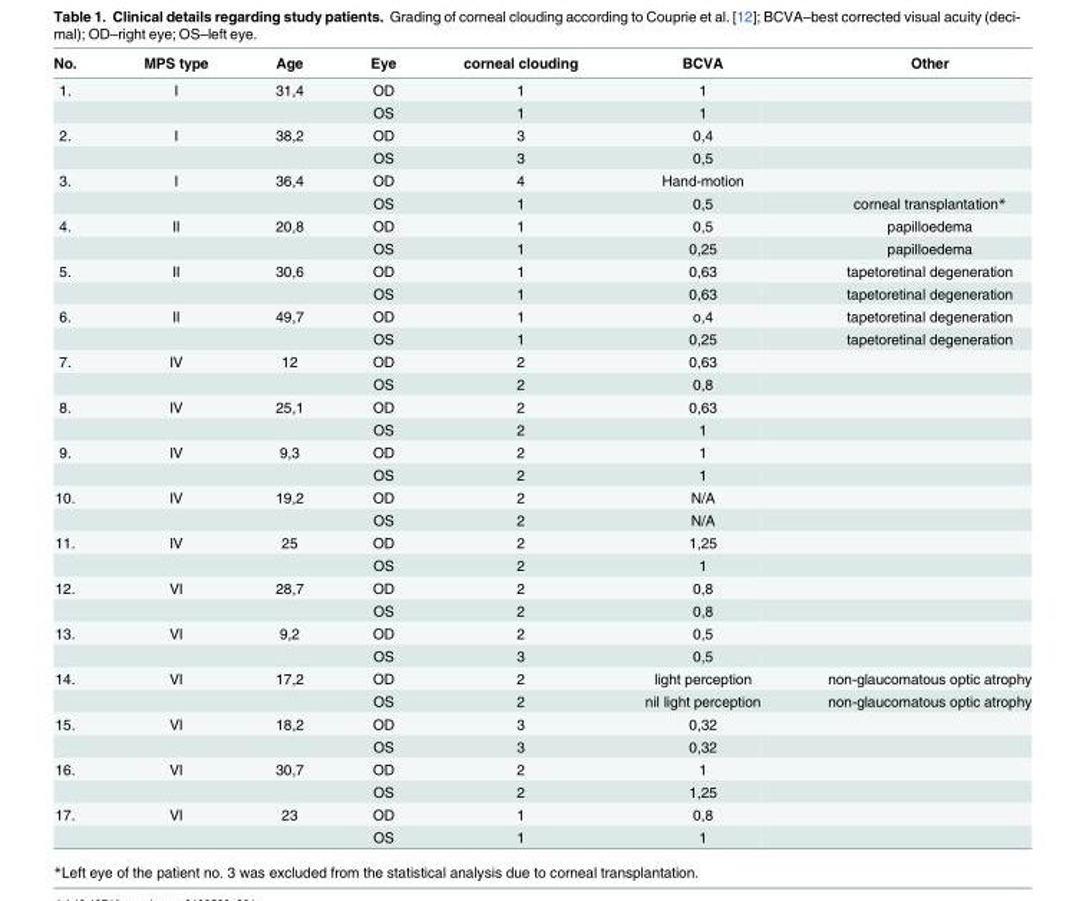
<table><thead><tr><td>No.</td><td>MPS type</td><td>Age</td><td>Eye</td><td>corneal clouding</td><td>BCVA</td><td>Other</td></tr></thead><tbody><tr><td rowspan="2">1.</td><td>I</td><td>31,4</td><td>OD</td><td>1</td><td>1</td><td></td></tr><tr><td></td><td></td><td>OS</td><td>1</td><td>1</td><td></td></tr><tr><td rowspan="2">2.</td><td>I</td><td>38,2</td><td>OD</td><td>3</td><td>0,4</td><td></td></tr><tr><td></td><td></td><td>OS</td><td>3</td><td>0,5</td><td></td></tr><tr><td rowspan="2">3.</td><td>I</td><td>36,4</td><td>OD</td><td>4</td><td>Hand-motion</td><td></td></tr><tr><td></td><td></td><td>OS</td><td>1</td><td>0,5</td><td>corneal transplantation*</td></tr><tr><td rowspan="2">4.</td><td>II</td><td>20,8</td><td>OD</td><td>1</td><td>0,5</td><td>papilloedema</td></tr><tr><td></td><td></td><td>OS</td><td>1</td><td>0,25</td><td>papilloedema</td></tr><tr><td rowspan="2">5.</td><td>II</td><td>30,6</td><td>OD</td><td>1</td><td>0,63</td><td>tapetoretinal degeneration</td></tr><tr><td></td><td></td><td>OS</td><td>1</td><td>0,63</td><td>tapetoretinal degeneration</td></tr><tr><td rowspan="2">6.</td><td>II</td><td>49,7</td><td>OD</td><td>1</td><td>o,4</td><td>tapetoretinal degeneration</td></tr><tr><td></td><td></td><td>OS</td><td>1</td><td>0,25</td><td>tapetoretinal degeneration</td></tr><tr><td rowspan="2">7.</td><td>IV</td><td>12</td><td>OD</td><td>2</td><td>0,63</td><td></td></tr><tr><td></td><td></td><td>OS</td><td>2</td><td>0,8</td><td></td></tr><tr><td rowspan="2">8.</td><td>IV</td><td>25,1</td><td>OD</td><td>2</td><td>0,63</td><td></td></tr><tr><td></td><td></td><td>OS</td><td>2</td><td>1</td><td></td></tr><tr><td rowspan="2">9.</td><td>IV</td><td>9,3</td><td>OD</td><td>2</td><td>1</td><td></td></tr><tr><td></td><td></td><td>OS</td><td>2</td><td>1</td><td></td></tr><tr><td rowspan="2">10.</td><td>IV</td><td>19,2</td><td>OD</td><td>2</td><td>N/A</td><td></td></tr><tr><td></td><td></td><td>OS</td><td>2</td><td>N/A</td><td></td></tr><tr><td rowspan="2">11.</td><td>IV</td><td>25</td><td>OD</td><td>2</td><td>1,25</td><td></td></tr><tr><td></td><td></td><td>OS</td><td>2</td><td>1</td><td></td></tr><tr><td rowspan="2">12.</td><td>VI</td><td>28,7</td><td>OD</td><td>2</td><td>0,8</td><td></td></tr><tr><td></td><td></td><td>OS</td><td>2</td><td>0,8</td><td></td></tr><tr><td rowspan="2">13.</td><td>VI</td><td>9,2</td><td>OD</td><td>2</td><td>0,5</td><td></td></tr><tr><td></td><td></td><td>OS</td><td>3</td><td>0,5</td><td></td></tr><tr><td rowspan="2">14.</td><td>VI</td><td>17,2</td><td>OD</td><td>2</td><td>light perception</td><td>non-glaucomatous optic atrophy</td></tr><tr><td></td><td></td><td>OS</td><td>2</td><td>nil light perception</td><td>non-glaucomatous optic atrophy</td></tr><tr><td rowspan="2">15.</td><td>VI</td><td>18,2</td><td>OD</td><td>3</td><td>0,32</td><td></td></tr><tr><td></td><td></td><td>OS</td><td>3</td><td>0,32</td><td></td></tr><tr><td rowspan="2">16.</td><td>VI</td><td>30,7</td><td>OD</td><td>2</td><td>1</td><td></td></tr><tr><td></td><td></td><td>OS</td><td>2</td><td>1,25</td><td></td></tr><tr><td rowspan="2">17.</td><td>VI</td><td>23</td><td>OD</td><td>1</td><td>0,8</td><td></td></tr><tr><td></td><td></td><td>OS</td><td>1</td><td>1</td><td></td></tr></tbody></table>